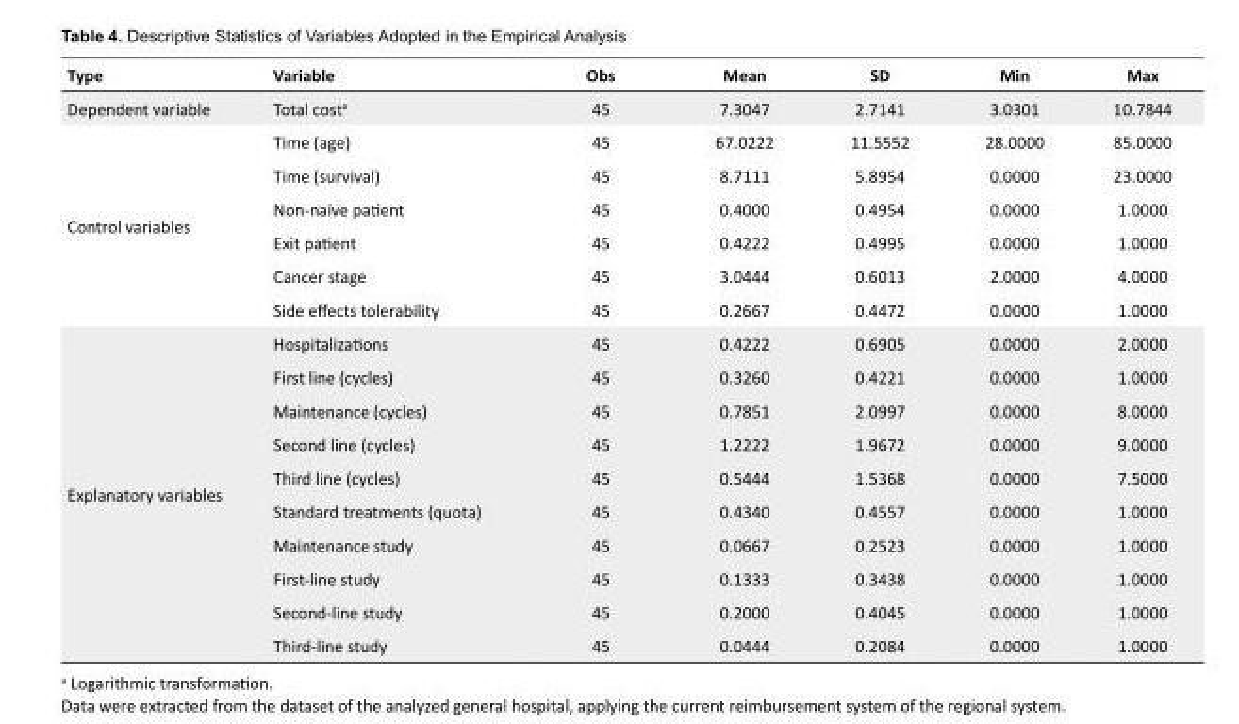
<table><tbody><tr><td>Type</td><td>Variable</td><td>Obs</td><td>Mean</td><td>SD</td><td>Min</td><td>Max</td></tr><tr><td>Dependent variable</td><td>Total cost<sup>a</sup></td><td>45</td><td>7.3047</td><td>2.7141</td><td>3.0301</td><td>10.7844</td></tr><tr><td rowspan="6">Control variables</td><td>Time (age)</td><td>45</td><td>67.0222</td><td>11.5552</td><td>28.0000</td><td>85.0000</td></tr><tr><td>Time (survival)</td><td>45</td><td>8.7111</td><td>5.8954</td><td>0.0000</td><td>23.0000</td></tr><tr><td>Non-naïve patient</td><td>45</td><td>0.4000</td><td>0.4954</td><td>0.0000</td><td>1.0000</td></tr><tr><td>Exit patient</td><td>45</td><td>0.4222</td><td>0.4995</td><td>0.0000</td><td>1.0000</td></tr><tr><td>Cancer stage</td><td>45</td><td>3.0444</td><td>0.6013</td><td>2.0000</td><td>4.0000</td></tr><tr><td>Side effects tolerability</td><td>45</td><td>0.2667</td><td>0.4472</td><td>0.0000</td><td>1.0000</td></tr><tr><td rowspan="10">Explanatory variables</td><td>Hospitalizations</td><td>45</td><td>0.4222</td><td>0.6905</td><td>0.0000</td><td>2.0000</td></tr><tr><td>First line (cycles)</td><td>45</td><td>0.3260</td><td>0.4221</td><td>0.0000</td><td>1.0000</td></tr><tr><td>Maintenance (cycles)</td><td>45</td><td>0.7851</td><td>2.0997</td><td>0.0000</td><td>8.0000</td></tr><tr><td>Second line (cycles)</td><td>45</td><td>1.2222</td><td>1.9672</td><td>0.0000</td><td>9.0000</td></tr><tr><td>Third line (cycles)</td><td>45</td><td>0.5444</td><td>1.5368</td><td>0.0000</td><td>7.5000</td></tr><tr><td>Standard treatments (quota)</td><td>45</td><td>0.4340</td><td>0.4557</td><td>0.0000</td><td>1.0000</td></tr><tr><td>Maintenance study</td><td>45</td><td>0.0667</td><td>0.2523</td><td>0.0000</td><td>1.0000</td></tr><tr><td>First-line study</td><td>45</td><td>0.1333</td><td>0.3438</td><td>0.0000</td><td>1.0000</td></tr><tr><td>Second-line study</td><td>45</td><td>0.2000</td><td>0.4045</td><td>0.0000</td><td>1.0000</td></tr><tr><td>Third-line study</td><td>45</td><td>0.0444</td><td>0.2084</td><td>0.0000</td><td>1.0000</td></tr></tbody></table>